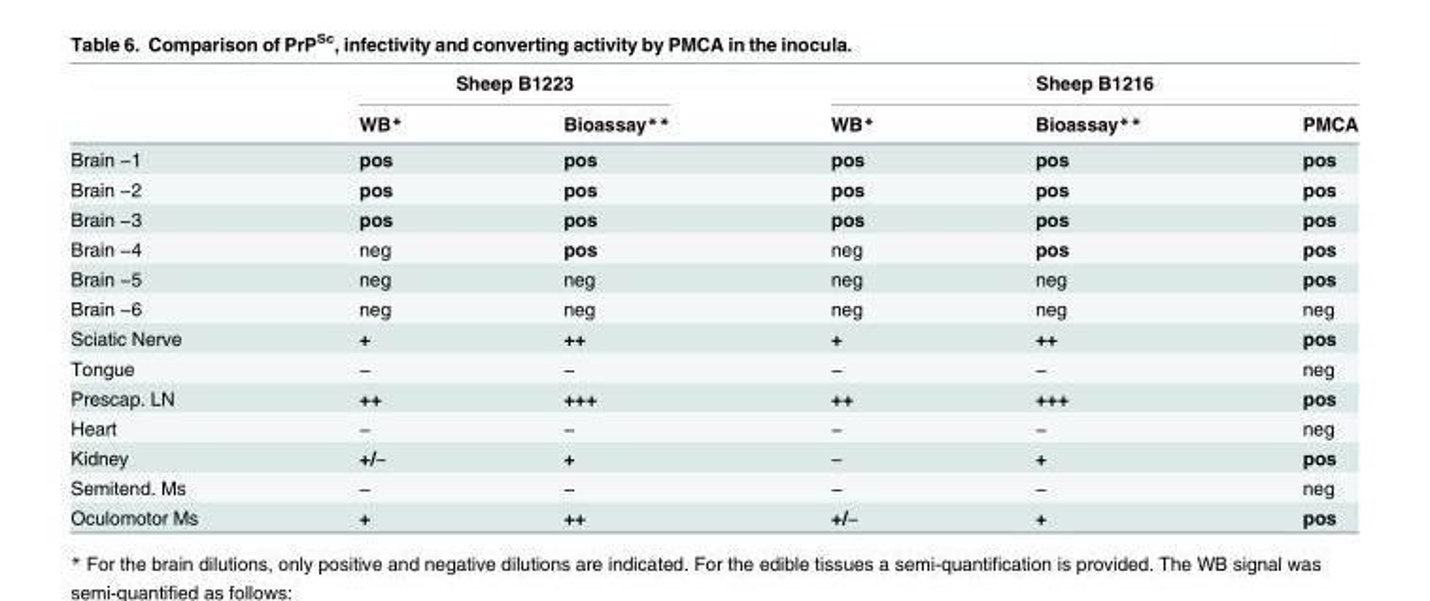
<table><thead><tr><td rowspan="2"></td><td colspan="2">Sheep B1223</td><td colspan="3">Sheep B1216</td></tr><tr><td>WB*</td><td>Bioassay**</td><td>WB*</td><td>Bioassay**</td><td>PMCA</td></tr></thead><tbody><tr><td>Brain −1</td><td>pos</td><td>pos</td><td>pos</td><td>pos</td><td>pos</td></tr><tr><td>Brain −2</td><td>pos</td><td>pos</td><td>pos</td><td>pos</td><td>pos</td></tr><tr><td>Brain −3</td><td>pos</td><td>pos</td><td>pos</td><td>pos</td><td>pos</td></tr><tr><td>Brain −4</td><td>neg</td><td>pos</td><td>neg</td><td>pos</td><td>pos</td></tr><tr><td>Brain −5</td><td>neg</td><td>neg</td><td>neg</td><td>neg</td><td>pos</td></tr><tr><td>Brain −6</td><td>neg</td><td>neg</td><td>neg</td><td>neg</td><td>neg</td></tr><tr><td>Sciatic Nerve</td><td>+</td><td>++</td><td>+</td><td>++</td><td>pos</td></tr><tr><td>Tongue</td><td>−</td><td>−</td><td>−</td><td>−</td><td>neg</td></tr><tr><td>Prescap. LN</td><td>++</td><td>+++</td><td>++</td><td>+++</td><td>pos</td></tr><tr><td>Heart</td><td>−</td><td>−</td><td>−</td><td>−</td><td>neg</td></tr><tr><td>Kidney</td><td>+/−</td><td>+</td><td>−</td><td>+</td><td>pos</td></tr><tr><td>Semitend. Ms</td><td>−</td><td>−</td><td>−</td><td>−</td><td>neg</td></tr><tr><td>Oculomotor Ms</td><td>+</td><td>++</td><td>+/−</td><td>+</td><td>pos</td></tr></tbody></table>